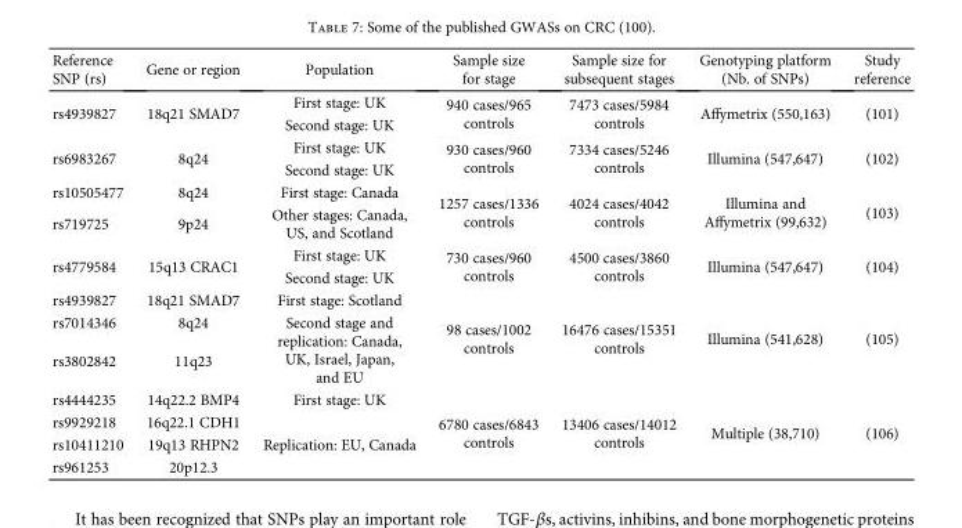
<table><thead><tr><td>Reference SNP (rs)</td><td>Gene or region</td><td>Population</td><td>Sample size for stage</td><td>Sample size for subsequent stages</td><td>Genotyping platform (Nb. of SNPs)</td><td>Study reference</td></tr></thead><tbody><tr><td rowspan="2">rs4939827</td><td rowspan="2">18q21 SMAD7</td><td>First stage: UK</td><td rowspan="2">940 cases/965 controls</td><td rowspan="2">7473 cases/5984 controls</td><td rowspan="2">Affymetrix (550,163)</td><td rowspan="2">(101)</td></tr><tr><td>Second stage: UK</td></tr><tr><td rowspan="2">rs6983267</td><td rowspan="2">8q24</td><td>First stage: UK</td><td rowspan="2">930 cases/960 controls</td><td rowspan="2">7334 cases/5246 controls</td><td rowspan="2">Illumina (547,647)</td><td rowspan="2">(102)</td></tr><tr><td>Second stage: UK</td></tr><tr><td>rs10505477</td><td>8q24</td><td>First stage: Canada</td><td rowspan="2">1257 cases/1336 controls</td><td rowspan="2">4024 cases/4042 controls</td><td rowspan="2">Illumina and Affymetrix (99,632)</td><td rowspan="2">(103)</td></tr><tr><td>rs719725</td><td>9p24</td><td>Other stages: Canada, US, and Scotland</td></tr><tr><td rowspan="2">rs4779584</td><td rowspan="2">15q13 CRAC1</td><td>First stage: UK</td><td rowspan="2">730 cases/960 controls</td><td rowspan="2">4500 cases/3860 controls</td><td rowspan="2">Illumina (547,647)</td><td rowspan="2">(104)</td></tr><tr><td>Second stage: UK</td></tr><tr><td>rs4939827</td><td>18q21 SMAD7</td><td>First stage: Scotland</td><td rowspan="3">98 cases/1002 controls</td><td rowspan="3">16476 cases/15351 controls</td><td rowspan="3">Illumina (541,628)</td><td rowspan="3">(105)</td></tr><tr><td>rs7014346</td><td>8q24</td><td rowspan="2">Second stage and replication: Canada, UK, Israel, Japan, and EU</td></tr><tr><td>rs3802842</td><td>11q23</td></tr><tr><td>rs4444235</td><td>14q22.2 BMP4</td><td>First stage: UK</td><td rowspan="4">6780 cases/6843 controls</td><td rowspan="4">13406 cases/14012 controls</td><td rowspan="4">Multiple (38,710)</td><td rowspan="4">(106)</td></tr><tr><td>rs9929218</td><td>16q22.1 CDH1</td><td rowspan="3">Replication: EU, Canada</td></tr><tr><td>rs10411210</td><td>19q13 RHPN2</td></tr><tr><td>rs961253</td><td>20p12.3</td></tr></tbody></table>